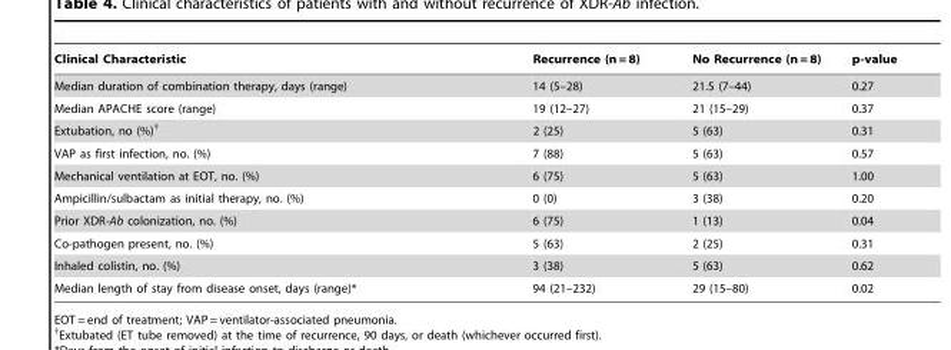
<table><thead><tr><td>Clinical Characteristic</td><td>Recurrence (n = 8)</td><td>No Recurrence (n = 8)</td><td>p-value</td></tr></thead><tbody><tr><td>Median duration of combination therapy, days (range)</td><td>14 (5–28)</td><td>21.5 (7–44)</td><td>0.27</td></tr><tr><td>Median APACHE score (range)</td><td>19 (12–27)</td><td>21 (15–29)</td><td>0.37</td></tr><tr><td>Extubation, no (%)†</td><td>2 (25)</td><td>5 (63)</td><td>0.31</td></tr><tr><td>VAP as first infection, no. (%)</td><td>7 (88)</td><td>5 (63)</td><td>0.57</td></tr><tr><td>Mechanical ventilation at EOT, no. (%)</td><td>6 (75)</td><td>5 (63)</td><td>1.00</td></tr><tr><td>Ampicillin/sulbactam as initial therapy, no. (%)</td><td>0 (0)</td><td>3 (38)</td><td>0.20</td></tr><tr><td>Prior XDR-Ab colonization, no. (%)</td><td>6 (75)</td><td>1 (13)</td><td>0.04</td></tr><tr><td>Co-pathogen present, no. (%)</td><td>5 (63)</td><td>2 (25)</td><td>0.31</td></tr><tr><td>Inhaled colistin, no. (%)</td><td>3 (38)</td><td>5 (63)</td><td>0.62</td></tr><tr><td>Median length of stay from disease onset, days (range)*</td><td>94 (21–232)</td><td>29 (15–80)</td><td>0.02</td></tr></tbody></table>